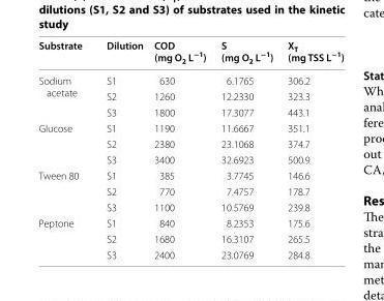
<table><thead><tr><td>Substrate</td><td>Dilution</td><td>COD (mg O<sub>2</sub> L<sup>−1</sup>)</td><td>S (mg O<sub>2</sub> L<sup>−1</sup>)</td><td>X<sub>T</sub> (mg TSS L<sup>−1</sup>)</td></tr></thead><tbody><tr><td rowspan="3">Sodium acetate</td><td>S1</td><td>630</td><td>6.1765</td><td>306.2</td></tr><tr><td>S2</td><td>1260</td><td>12.2330</td><td>323.3</td></tr><tr><td>S3</td><td>1800</td><td>17.3077</td><td>443.1</td></tr><tr><td rowspan="3">Glucose</td><td>S1</td><td>1190</td><td>11.6667</td><td>351.1</td></tr><tr><td>S2</td><td>2380</td><td>23.1068</td><td>374.7</td></tr><tr><td>S3</td><td>3400</td><td>32.6923</td><td>500.9</td></tr><tr><td rowspan="3">Tween 80</td><td>S1</td><td>385</td><td>3.7745</td><td>146.6</td></tr><tr><td>S2</td><td>770</td><td>7.4757</td><td>178.7</td></tr><tr><td>S3</td><td>1100</td><td>10.5769</td><td>239.8</td></tr><tr><td rowspan="3">Peptone</td><td>S1</td><td>840</td><td>8.2353</td><td>175.6</td></tr><tr><td>S2</td><td>1680</td><td>16.3107</td><td>265.5</td></tr><tr><td>S3</td><td>2400</td><td>23.0769</td><td>284.8</td></tr></tbody></table>